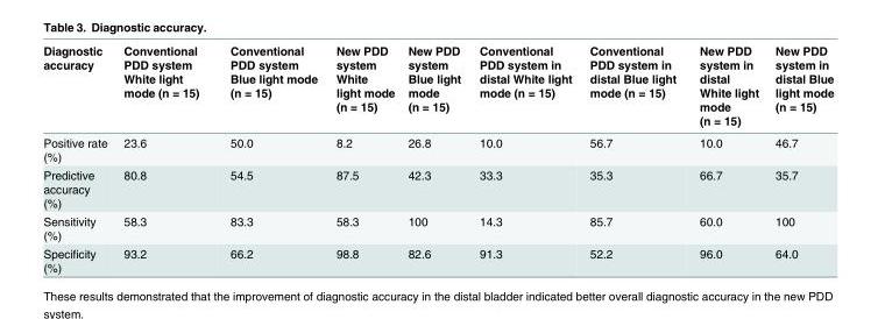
<table><thead><tr><td>Diagnostic accuracy</td><td>Conventional PDD system White light mode (n = 15)</td><td>Conventional PDD system Blue light mode (n = 15)</td><td>New PDD system White light mode (n = 15)</td><td>New PDD system Blue light mode (n = 15)</td><td>Conventional PDD system in distal White light mode (n = 15)</td><td>Conventional PDD system in distal Blue light mode (n = 15)</td><td>New PDD system in distal White light mode (n = 15)</td><td>New PDD system in distal Blue light mode (n = 15)</td></tr></thead><tbody><tr><td>Positive rate (%)</td><td>23.6</td><td>50.0</td><td>8.2</td><td>26.8</td><td>10.0</td><td>56.7</td><td>10.0</td><td>46.7</td></tr><tr><td>Predictive accuracy (%)</td><td>80.8</td><td>54.5</td><td>87.5</td><td>42.3</td><td>33.3</td><td>35.3</td><td>66.7</td><td>35.7</td></tr><tr><td>Sensitivity (%)</td><td>58.3</td><td>83.3</td><td>58.3</td><td>100</td><td>14.3</td><td>85.7</td><td>60.0</td><td>100</td></tr><tr><td>Specificity (%)</td><td>93.2</td><td>66.2</td><td>98.8</td><td>82.6</td><td>91.3</td><td>52.2</td><td>96.0</td><td>64.0</td></tr></tbody></table>